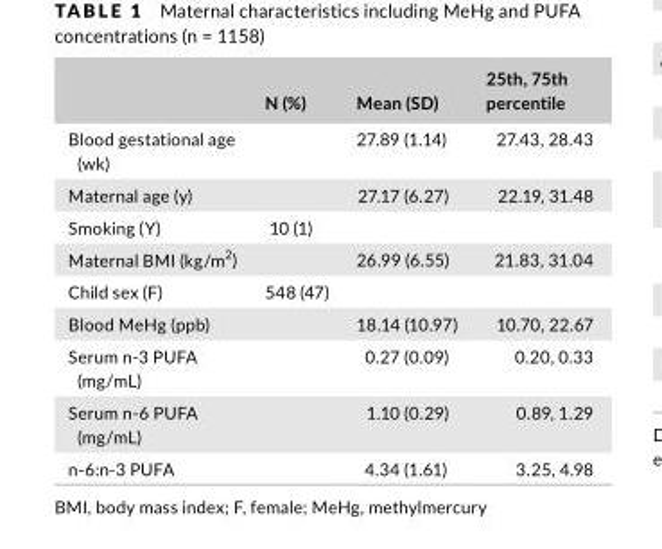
<table><thead><tr><td></td><td>N (%)</td><td>Mean (SD)</td><td>25th, 75th percentile</td></tr></thead><tbody><tr><td>Blood gestational age (wk)</td><td></td><td>27.89 (1.14)</td><td>27.43, 28.43</td></tr><tr><td>Maternal age (y)</td><td></td><td>27.17 (6.27)</td><td>22.19, 31.48</td></tr><tr><td>Smoking (Y)</td><td>10 (1)</td><td></td><td></td></tr><tr><td>Maternal BMI (kg/m<sup>2</sup>)</td><td></td><td>26.99 (6.55)</td><td>21.83, 31.04</td></tr><tr><td>Child sex (F)</td><td>548 (47)</td><td></td><td></td></tr><tr><td>Blood MeHg (ppb)</td><td></td><td>18.14 (10.97)</td><td>10.70, 22.67</td></tr><tr><td>Serum n- 3 PUFA (mg/mL)</td><td></td><td>0.27 (0.09)</td><td>0.20, 0.33</td></tr><tr><td>Serum n- 6 PUFA (mg/mL)</td><td></td><td>1.10 (0.29)</td><td>0.89, 1.29</td></tr><tr><td>n- 6:n- 3 PUFA</td><td></td><td>4.34 (1.61)</td><td>3.25, 4.98</td></tr></tbody></table>